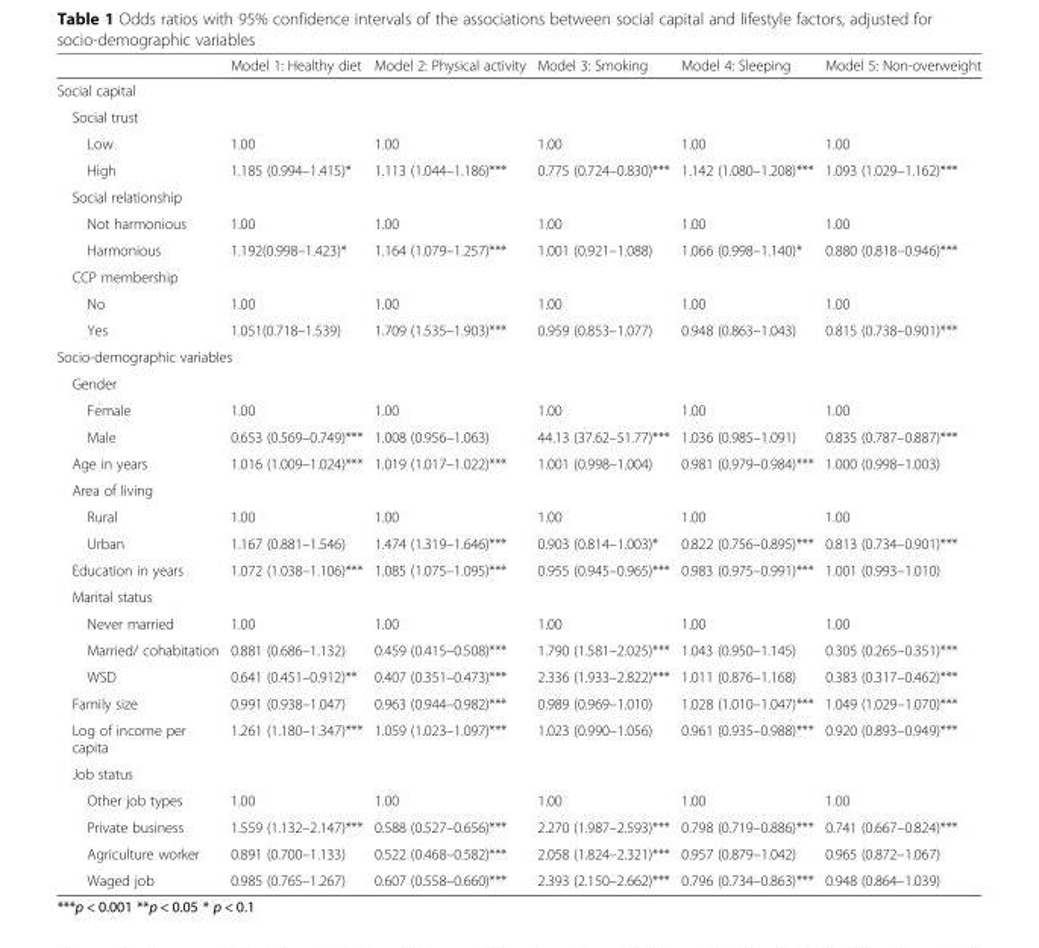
<table><thead><tr><td></td><td>Model 1: Healthy diet</td><td>Model 2: Physical activity</td><td>Model 3: Smoking</td><td>Model 4: Sleeping</td><td>Model 5: Non-overweight</td></tr></thead><tbody><tr><td colspan="6">Social capital</td></tr><tr><td colspan="6">Social trust</td></tr><tr><td>Low</td><td>1.00</td><td>1.00</td><td>1.00</td><td>1.00</td><td>1.00</td></tr><tr><td>High</td><td>1.185 (0.994–1.415)*</td><td>1.113 (1.044–1.186)***</td><td>0.775 (0.724–0.830)***</td><td>1.142 (1.080–1.208)***</td><td>1.093 (1.029–1.162)***</td></tr><tr><td colspan="6">Social relationship</td></tr><tr><td>Not harmonious</td><td>1.00</td><td>1.00</td><td>1.00</td><td>1.00</td><td>1.00</td></tr><tr><td>Harmonious</td><td>1.192(0.998–1.423)*</td><td>1.164 (1.079–1.257)***</td><td>1.001 (0.921–1.088)</td><td>1.066 (0.998–1.140)*</td><td>0.880 (0.818–0.946)***</td></tr><tr><td colspan="6">CCP membership</td></tr><tr><td>No</td><td>1.00</td><td>1.00</td><td>1.00</td><td>1.00</td><td>1.00</td></tr><tr><td>Yes</td><td>1.051(0.718–1.539)</td><td>1.709 (1.535–1.903)***</td><td>0.959 (0.853–1.077)</td><td>0.948 (0.863–1.043)</td><td>0.815 (0.738–0.901)***</td></tr><tr><td colspan="6">Socio-demographic variables</td></tr><tr><td colspan="6">Gender</td></tr><tr><td>Female</td><td>1.00</td><td>1.00</td><td>1.00</td><td>1.00</td><td>1.00</td></tr><tr><td>Male</td><td>0.653 (0.569–0.749)***</td><td>1.008 (0.956–1.063)</td><td>44.13 (37.62–51.77)***</td><td>1.036 (0.985–1.091)</td><td>0.835 (0.787–0.887)***</td></tr><tr><td>Age in years</td><td>1.016 (1.009–1.024)***</td><td>1.019 (1.017–1.022)***</td><td>1.001 (0.998–1.004)</td><td>0.981 (0.979–0.984)***</td><td>1.000 (0.998–1.003)</td></tr><tr><td colspan="6">Area of living</td></tr><tr><td>Rural</td><td>1.00</td><td>1.00</td><td>1.00</td><td>1.00</td><td>1.00</td></tr><tr><td>Urban</td><td>1.167 (0.881–1.546)</td><td>1.474 (1.319–1.646)***</td><td>0.903 (0.814–1.003)*</td><td>0.822 (0.756–0.895)***</td><td>0.813 (0.734–0.901)***</td></tr><tr><td>Education in years</td><td>1.072 (1.038–1.106)***</td><td>1.085 (1.075–1.095)***</td><td>0.955 (0.945–0.965)***</td><td>0.983 (0.975–0.991)***</td><td>1.001 (0.993–1.010)</td></tr><tr><td colspan="6">Marital status</td></tr><tr><td>Never married</td><td>1.00</td><td>1.00</td><td>1.00</td><td>1.00</td><td>1.00</td></tr><tr><td>Married/ cohabitation</td><td>0.881 (0.686–1.132)</td><td>0.459 (0.415–0.508)***</td><td>1.790 (1.581–2.025)***</td><td>1.043 (0.950–1.145)</td><td>0.305 (0.265–0.351)***</td></tr><tr><td>WSD</td><td>0.641 (0.451–0.912)**</td><td>0.407 (0.351–0.473)***</td><td>2.336 (1.933–2.822)***</td><td>1.011 (0.876–1.168)</td><td>0.383 (0.317–0.462)***</td></tr><tr><td>Family size</td><td>0.991 (0.938–1.047)</td><td>0.963 (0.944–0.982)***</td><td>0.989 (0.969–1.010)</td><td>1.028 (1.010–1.047)***</td><td>1.049 (1.029–1.070)***</td></tr><tr><td>Log of income per capita</td><td>1.261 (1.180–1.347)***</td><td>1.059 (1.023–1.097)***</td><td>1.023 (0.990–1.056)</td><td>0.961 (0.935–0.988)***</td><td>0.920 (0.893–0.949)***</td></tr><tr><td colspan="6">Job status</td></tr><tr><td>Other job types</td><td>1.00</td><td>1.00</td><td>1.00</td><td>1.00</td><td>1.00</td></tr><tr><td>Private business</td><td>1.559 (1.132–2.147)***</td><td>0.588 (0.527–0.656)***</td><td>2.270 (1.987–2.593)***</td><td>0.798 (0.719–0.886)***</td><td>0.741 (0.667–0.824)***</td></tr><tr><td>Agriculture worker</td><td>0.891 (0.700–1.133)</td><td>0.522 (0.468–0.582)***</td><td>2.058 (1.824–2.321)***</td><td>0.957 (0.879–1.042)</td><td>0.965 (0.872–1.067)</td></tr><tr><td>Waged job</td><td>0.985 (0.765–1.267)</td><td>0.607 (0.558–0.660)***</td><td>2.393 (2.150–2.662)***</td><td>0.796 (0.734–0.863)***</td><td>0.948 (0.864–1.039)</td></tr></tbody></table>